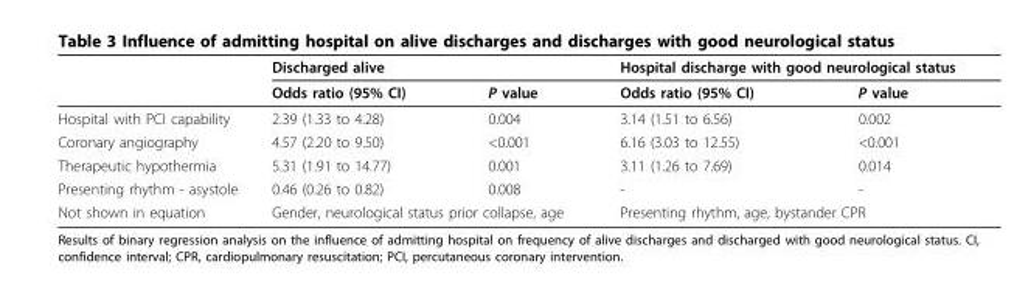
<table><thead><tr><td rowspan="2"></td><td colspan="2">Discharged alive</td><td colspan="2">Hospital discharge with good neurological status</td></tr><tr><td>Odds ratio (95% CI)</td><td>P value</td><td>Odds ratio (95% CI)</td><td>P value</td></tr></thead><tbody><tr><td>Hospital with PCI capability</td><td>2.39 (1.33 to 4.28)</td><td>0.004</td><td>3.14 (1.51 to 6.56)</td><td>0.002</td></tr><tr><td>Coronary angiography</td><td>4.57 (2.20 to 9.50)</td><td>&lt;0.001</td><td>6.16 (3.03 to 12.55)</td><td>&lt;0.001</td></tr><tr><td>Therapeutic hypothermia</td><td>5.31 (1.91 to 14.77)</td><td>0.001</td><td>3.11 (1.26 to 7.69)</td><td>0.014</td></tr><tr><td>Presenting rhythm - asystole</td><td>0.46 (0.26 to 0.82)</td><td>0.008</td><td>-</td><td>-</td></tr><tr><td>Not shown in equation</td><td colspan="2">Gender, neurological status prior collapse, age</td><td colspan="2">Presenting rhythm, age, bystander CPR</td></tr></tbody></table>